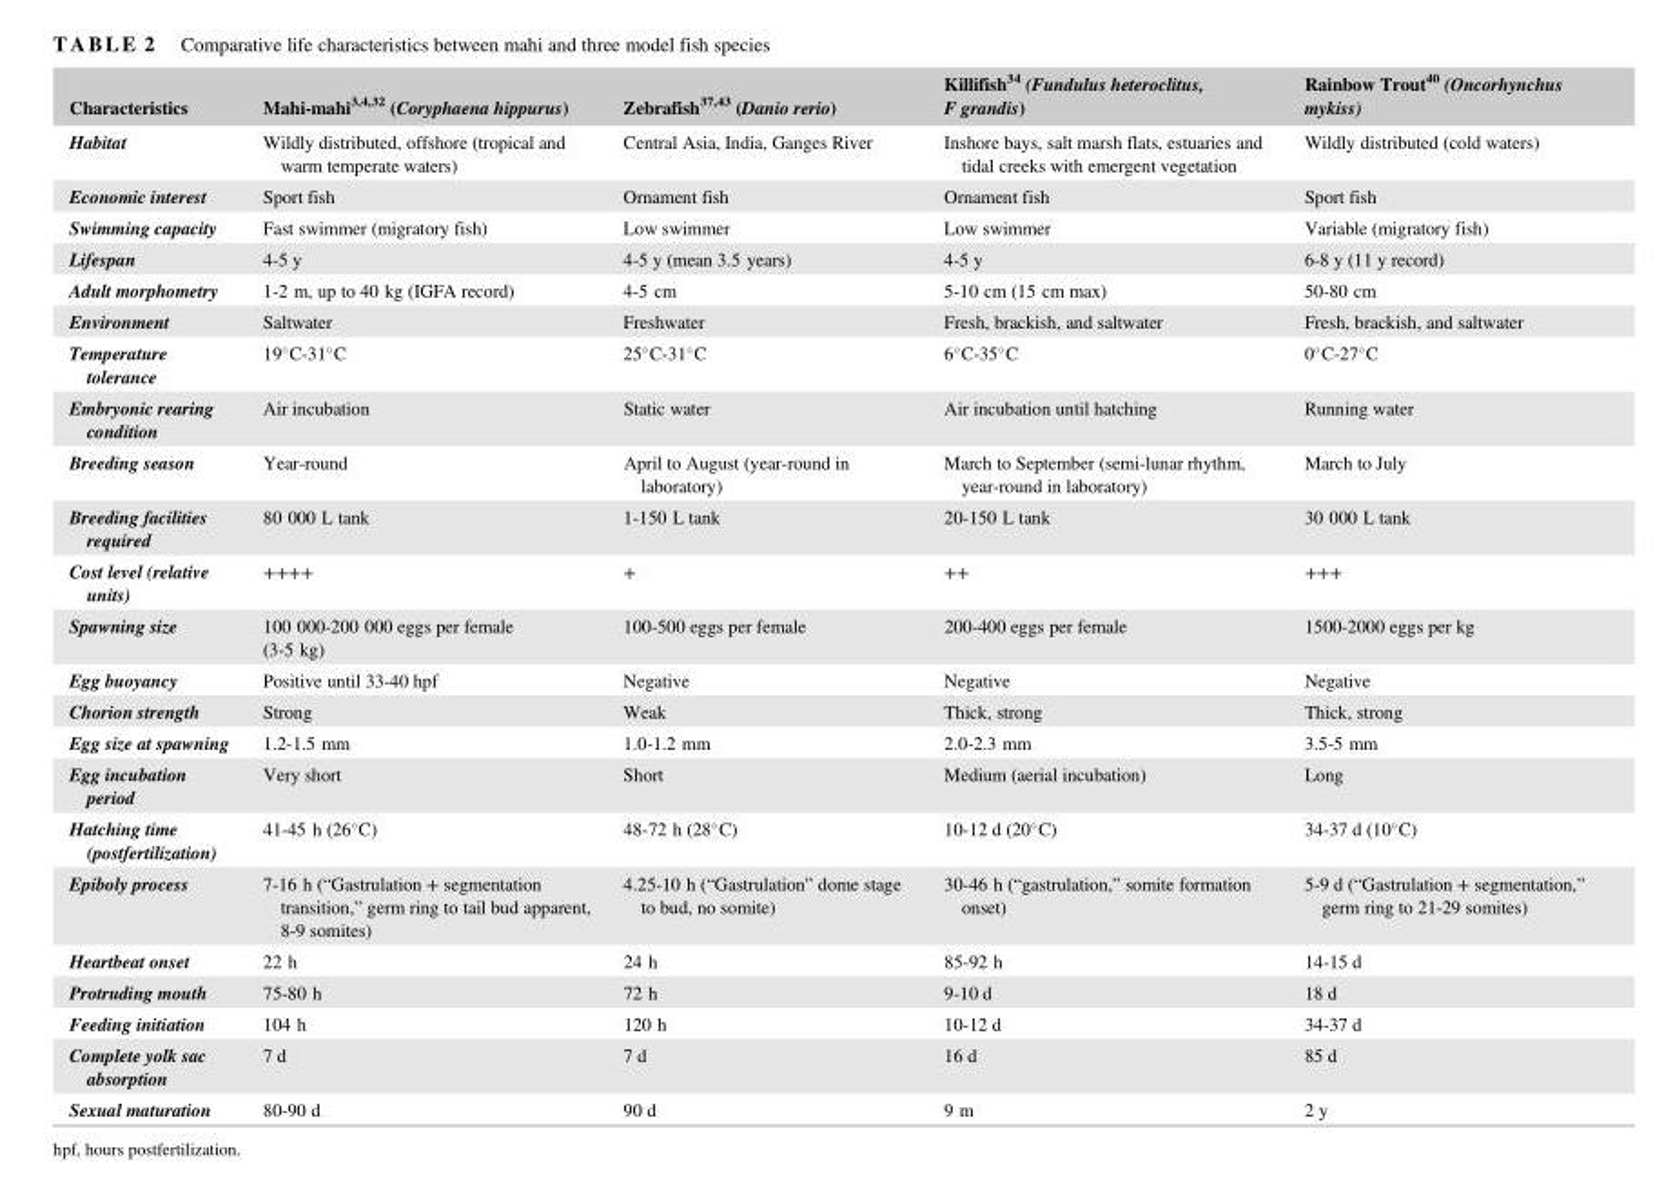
<table><thead><tr><td>Characteristics</td><td>Mahi-mahi<sup>3</sup>,<sup>4</sup>,<sup>32</sup> (Coryphaena hippurus)</td><td>Zebrafish<sup>37</sup>,<sup>43</sup> (Danio rerio)</td><td>Killifish<sup>34</sup> (Fundulus heteroclitus, F grandis)</td><td>Rainbow Trout<sup>40</sup> (Oncorhynchus mykiss)</td></tr></thead><tbody><tr><td>Habitat</td><td>Wildly distributed, offshore (tropical and warm temperate waters)</td><td>Central Asia, India, Ganges River</td><td>Inshore bays, salt marsh flats, estuaries and tidal creeks with emergent vegetation</td><td>Wildly distributed (cold waters)</td></tr><tr><td>Economic interest</td><td>Sport fish</td><td>Ornament fish</td><td>Ornament fish</td><td>Sport fish</td></tr><tr><td>Swimming capacity</td><td>Fast swimmer (migratory fish)</td><td>Low swimmer</td><td>Low swimmer</td><td>Variable (migratory fish)</td></tr><tr><td>Lifespan</td><td>4-5 y</td><td>4-5 y (mean 3.5 years)</td><td>4-5 y</td><td>6-8 y (11 y record)</td></tr><tr><td>Adult morphometry</td><td>1-2 m, up to 40 kg (IGFA record)</td><td>4-5 cm</td><td>5-10 cm (15 cm max)</td><td>50-80 cm</td></tr><tr><td>Environment</td><td>Saltwater</td><td>Freshwater</td><td>Fresh, brackish, and saltwater</td><td>Fresh, brackish, and saltwater</td></tr><tr><td>Temperature tolerance</td><td>19°C-31°C</td><td>25°C-31°C</td><td>6°C-35°C</td><td>0°C-27°C</td></tr><tr><td>Embryonic rearing condition</td><td>Air incubation</td><td>Static water</td><td>Air incubation until hatching</td><td>Running water</td></tr><tr><td>Breeding season</td><td>Year-round</td><td>April to August (year-round in laboratory)</td><td>March to September (semi-lunar rhythm, year-round in laboratory)</td><td>March to July</td></tr><tr><td>Breeding facilities required</td><td>80 000 L tank</td><td>1-150 L tank</td><td>20-150 L tank</td><td>30 000 L tank</td></tr><tr><td>Cost level (relative units)</td><td>++++</td><td>+</td><td>++</td><td>+++</td></tr><tr><td>Spawning size</td><td>100 000-200 000 eggs per female (3-5 kg)</td><td>100-500 eggs per female</td><td>200-400 eggs per female</td><td>1500-2000 eggs per kg</td></tr><tr><td>Egg buoyancy</td><td>Positive until 33-40 hpf</td><td>Negative</td><td>Negative</td><td>Negative</td></tr><tr><td>Chorion strength</td><td>Strong</td><td>Weak</td><td>Thick, strong</td><td>Thick, strong</td></tr><tr><td>Egg size at spawning</td><td>1.2-1.5 mm</td><td>1.0-1.2 mm</td><td>2.0-2.3 mm</td><td>3.5-5 mm</td></tr><tr><td>Egg incubation period</td><td>Very short</td><td>Short</td><td>Medium (aerial incubation)</td><td>Long</td></tr><tr><td>Hatching time (postfertilization)</td><td>41-45 h (26°C)</td><td>48-72 h (28°C)</td><td>10-12 d (20°C)</td><td>34-37 d (10°C)</td></tr><tr><td>Epiboly process</td><td>7-16 h (“Gastrulation + segmentation transition,” germ ring to tail bud apparent, 8-9 somites)</td><td>4.25-10 h (“Gastrulation” dome stage to bud, no somite)</td><td>30-46 h (“gastrulation,” somite formation onset)</td><td>5-9 d (“Gastrulation + segmentation,” germ ring to 21-29 somites)</td></tr><tr><td>Heartbeat onset</td><td>22 h</td><td>24 h</td><td>85-92 h</td><td>14-15 d</td></tr><tr><td>Protruding mouth</td><td>75-80 h</td><td>72 h</td><td>9-10 d</td><td>18 d</td></tr><tr><td>Feeding initiation</td><td>104 h</td><td>120 h</td><td>10-12 d</td><td>34-37 d</td></tr><tr><td>Complete yolk sac absorption</td><td>7 d</td><td>7 d</td><td>16 d</td><td>85 d</td></tr><tr><td>Sexual maturation</td><td>80-90 d</td><td>90 d</td><td>9 m</td><td>2 y</td></tr></tbody></table>